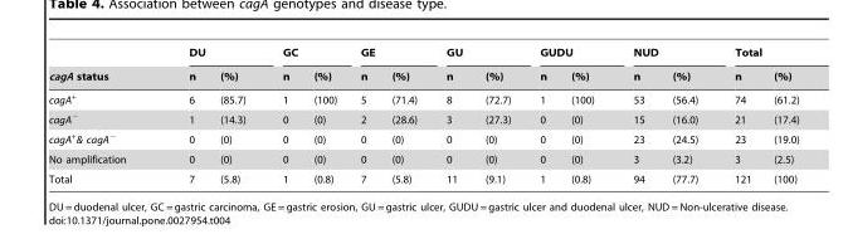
<table><thead><tr><td rowspan="2">cagA status</td><td colspan="2">DU</td><td colspan="2">GC</td><td colspan="2">GE</td><td colspan="2">GU</td><td colspan="2">GUDU</td><td colspan="2">NUD</td><td colspan="2">Total</td></tr><tr><td>n</td><td>(%)</td><td>n</td><td>(%)</td><td>n</td><td>(%)</td><td>n</td><td>(%)</td><td>n</td><td>(%)</td><td>n</td><td>(%)</td><td>n</td><td>(%)</td></tr></thead><tbody><tr><td>cagA<sup>+</sup></td><td>6</td><td>(85.7)</td><td>1</td><td>(100)</td><td>5</td><td>(71.4)</td><td>8</td><td>(72.7)</td><td>1</td><td>(100)</td><td>53</td><td>(56.4)</td><td>74</td><td>(61.2)</td></tr><tr><td>cagA<sup>−</sup></td><td>1</td><td>(14.3)</td><td>0</td><td>(0)</td><td>2</td><td>(28.6)</td><td>3</td><td>(27.3)</td><td>0</td><td>(0)</td><td>15</td><td>(16.0)</td><td>21</td><td>(17.4)</td></tr><tr><td>cagA<sup>+</sup>&amp; cagA<sup>−</sup></td><td>0</td><td>(0)</td><td>0</td><td>(0)</td><td>0</td><td>(0)</td><td>0</td><td>(0)</td><td>0</td><td>(0)</td><td>23</td><td>(24.5)</td><td>23</td><td>(19.0)</td></tr><tr><td>No amplification</td><td>0</td><td>(0)</td><td>0</td><td>(0)</td><td>0</td><td>(0)</td><td>0</td><td>(0)</td><td>0</td><td>(0)</td><td>3</td><td>(3.2)</td><td>3</td><td>(2.5)</td></tr><tr><td>Total</td><td>7</td><td>(5.8)</td><td>1</td><td>(0.8)</td><td>7</td><td>(5.8)</td><td>11</td><td>(9.1)</td><td>1</td><td>(0.8)</td><td>94</td><td>(77.7)</td><td>121</td><td>(100)</td></tr></tbody></table>